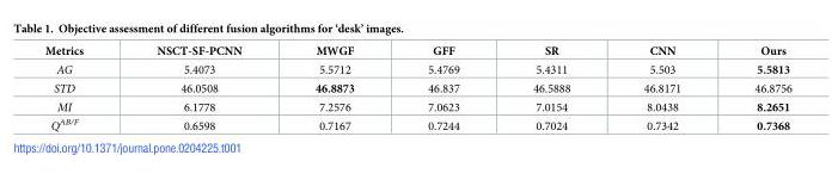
<table><thead><tr><td>Metrics</td><td>NSCT-SF-PCNN</td><td>MWGF</td><td>GFF</td><td>SR</td><td>CNN</td><td>Ours</td></tr></thead><tbody><tr><td>AG</td><td>5.4073</td><td>5.5712</td><td>5.4769</td><td>5.4311</td><td>5.503</td><td>5.5813</td></tr><tr><td>STD</td><td>46.0508</td><td>46.8873</td><td>46.837</td><td>46.5888</td><td>46.8171</td><td>46.8756</td></tr><tr><td>MI</td><td>6.1778</td><td>7.2576</td><td>7.0623</td><td>7.0154</td><td>8.0438</td><td>8.2651</td></tr><tr><td>Q<sup>AB/F</sup></td><td>0.6598</td><td>0.7167</td><td>0.7244</td><td>0.7024</td><td>0.7342</td><td>0.7368</td></tr></tbody></table>